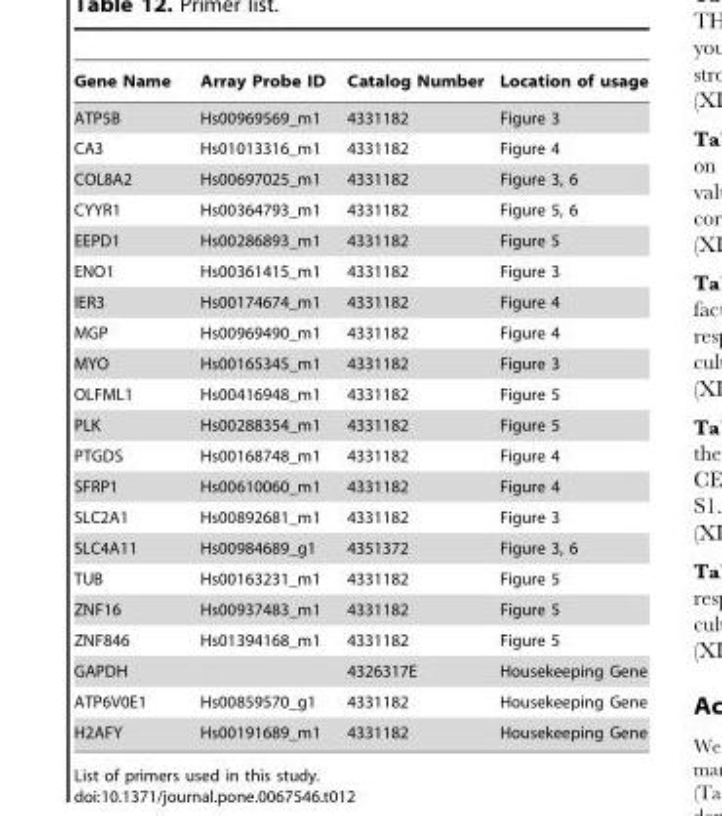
<table><thead><tr><td>Gene Name</td><td>Array Probe ID</td><td>Catalog Number</td><td>Location of usage</td></tr></thead><tbody><tr><td>ATP5B</td><td>Hs00969569_m1</td><td>4331182</td><td>Figure 3</td></tr><tr><td>CA3</td><td>Hs01013316_m1</td><td>4331182</td><td>Figure 4</td></tr><tr><td>COL8A2</td><td>Hs00697025_m1</td><td>4331182</td><td>Figure 3, 6</td></tr><tr><td>CYYR1</td><td>Hs00364793_m1</td><td>4331182</td><td>Figure 5, 6</td></tr><tr><td>EEPD1</td><td>Hs00286893_m1</td><td>4331182</td><td>Figure 5</td></tr><tr><td>ENO1</td><td>Hs00361415_m1</td><td>4331182</td><td>Figure 3</td></tr><tr><td>IER3</td><td>Hs00174674_m1</td><td>4331182</td><td>Figure 4</td></tr><tr><td>MGP</td><td>Hs00969490_m1</td><td>4331182</td><td>Figure 4</td></tr><tr><td>MYO</td><td>Hs00165345_m1</td><td>4331182</td><td>Figure 3</td></tr><tr><td>OLFML1</td><td>Hs00416948_m1</td><td>4331182</td><td>Figure 5</td></tr><tr><td>PLK</td><td>Hs00288354_m1</td><td>4331182</td><td>Figure 5</td></tr><tr><td>PTGDS</td><td>Hs00168748_m1</td><td>4331182</td><td>Figure 4</td></tr><tr><td>SFRP1</td><td>Hs00610060_m1</td><td>4331182</td><td>Figure 4</td></tr><tr><td>SLC2A1</td><td>Hs00892681_m1</td><td>4331182</td><td>Figure 3</td></tr><tr><td>SLC4A11</td><td>Hs00984689_g1</td><td>4351372</td><td>Figure 3, 6</td></tr><tr><td>TUB</td><td>Hs00163231_m1</td><td>4331182</td><td>Figure 5</td></tr><tr><td>ZNF16</td><td>Hs00937483_m1</td><td>4331182</td><td>Figure 5</td></tr><tr><td>ZNF846</td><td>Hs01394168_m1</td><td>4331182</td><td>Figure 5</td></tr><tr><td>GAPDH</td><td></td><td>4326317E</td><td>Housekeeping Gene</td></tr><tr><td>ATP6V0E1</td><td>Hs00859570_g1</td><td>4331182</td><td>Housekeeping Gene</td></tr><tr><td>H2AFY</td><td>Hs00191689_m1</td><td>4331182</td><td>Housekeeping Gene</td></tr></tbody></table>